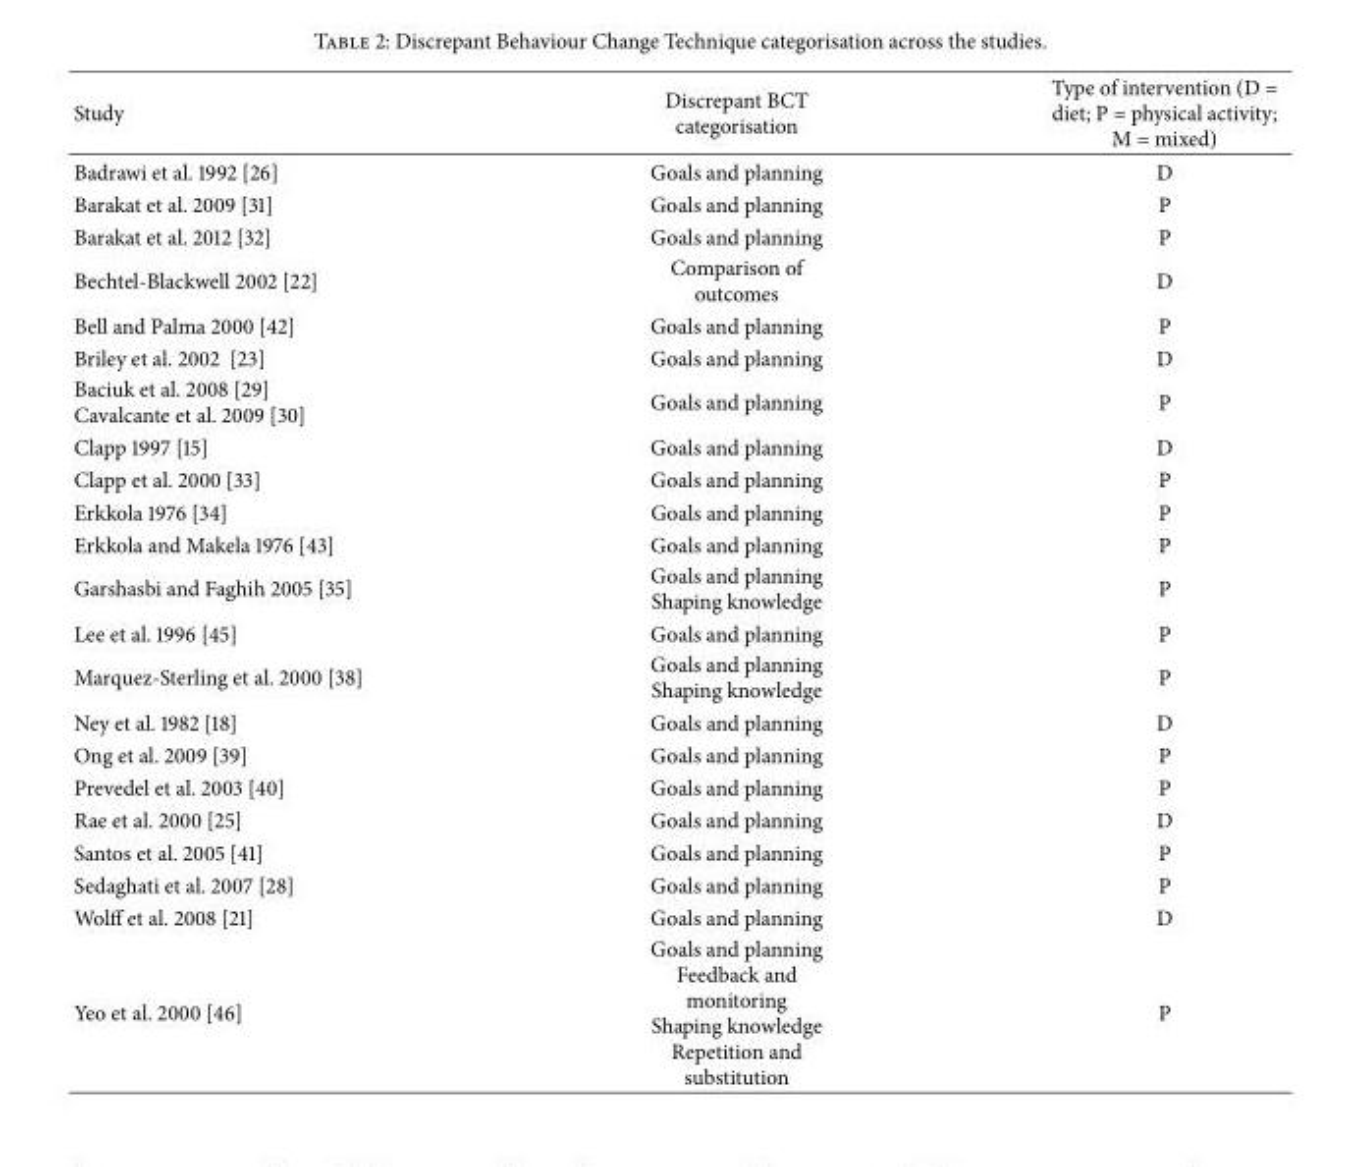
<table><thead><tr><td>Study</td><td>Discrepant BCT categorisation</td><td>Type of intervention (D = diet; P = physical activity; M = mixed)</td></tr></thead><tbody><tr><td>Badrawi et al. 1992 [26]</td><td>Goals and planning</td><td>D</td></tr><tr><td>Barakat et al. 2009 [31]</td><td>Goals and planning</td><td>P</td></tr><tr><td>Barakat et al. 2012 [32]</td><td>Goals and planning</td><td>P</td></tr><tr><td>Bechtel-Blackwell 2002 [22]</td><td>Comparison of outcomes</td><td>D</td></tr><tr><td>Bell and Palma 2000 [42]</td><td>Goals and planning</td><td>P</td></tr><tr><td>Briley et al. 2002 [23]</td><td>Goals and planning</td><td>D</td></tr><tr><td>Baciuk et al. 2008 [29] Cavalcante et al. 2009 [30]</td><td>Goals and planning</td><td>P</td></tr><tr><td>Clapp 1997 [15]</td><td>Goals and planning</td><td>D</td></tr><tr><td>Clapp et al. 2000 [33]</td><td>Goals and planning</td><td>P</td></tr><tr><td>Erkkola 1976 [34]</td><td>Goals and planning</td><td>P</td></tr><tr><td>Erkkola and Makela 1976 [43]</td><td>Goals and planning</td><td>P</td></tr><tr><td>Garshasbi and Faghih 2005 [35]</td><td>Goals and planning Shaping knowledge</td><td>P</td></tr><tr><td>Lee et al. 1996 [45]</td><td>Goals and planning</td><td>P</td></tr><tr><td>Marquez-Sterling et al. 2000 [38]</td><td>Goals and planning Shaping knowledge</td><td>P</td></tr><tr><td>Ney et al. 1982 [18]</td><td>Goals and planning</td><td>D</td></tr><tr><td>Ong et al. 2009 [39]</td><td>Goals and planning</td><td>P</td></tr><tr><td>Prevedel et al. 2003 [40]</td><td>Goals and planning</td><td>P</td></tr><tr><td>Rae et al. 2000 [25]</td><td>Goals and planning</td><td>D</td></tr><tr><td>Santos et al. 2005 [41]</td><td>Goals and planning</td><td>P</td></tr><tr><td>Sedaghati et al. 2007 [28]</td><td>Goals and planning</td><td>P</td></tr><tr><td>Wolff et al. 2008 [21]</td><td>Goals and planning</td><td>D</td></tr><tr><td>Yeo et al. 2000 [46]</td><td>Goals and planning Feedback and monitoring Shaping knowledge Repetition and substitution</td><td>P</td></tr></tbody></table>